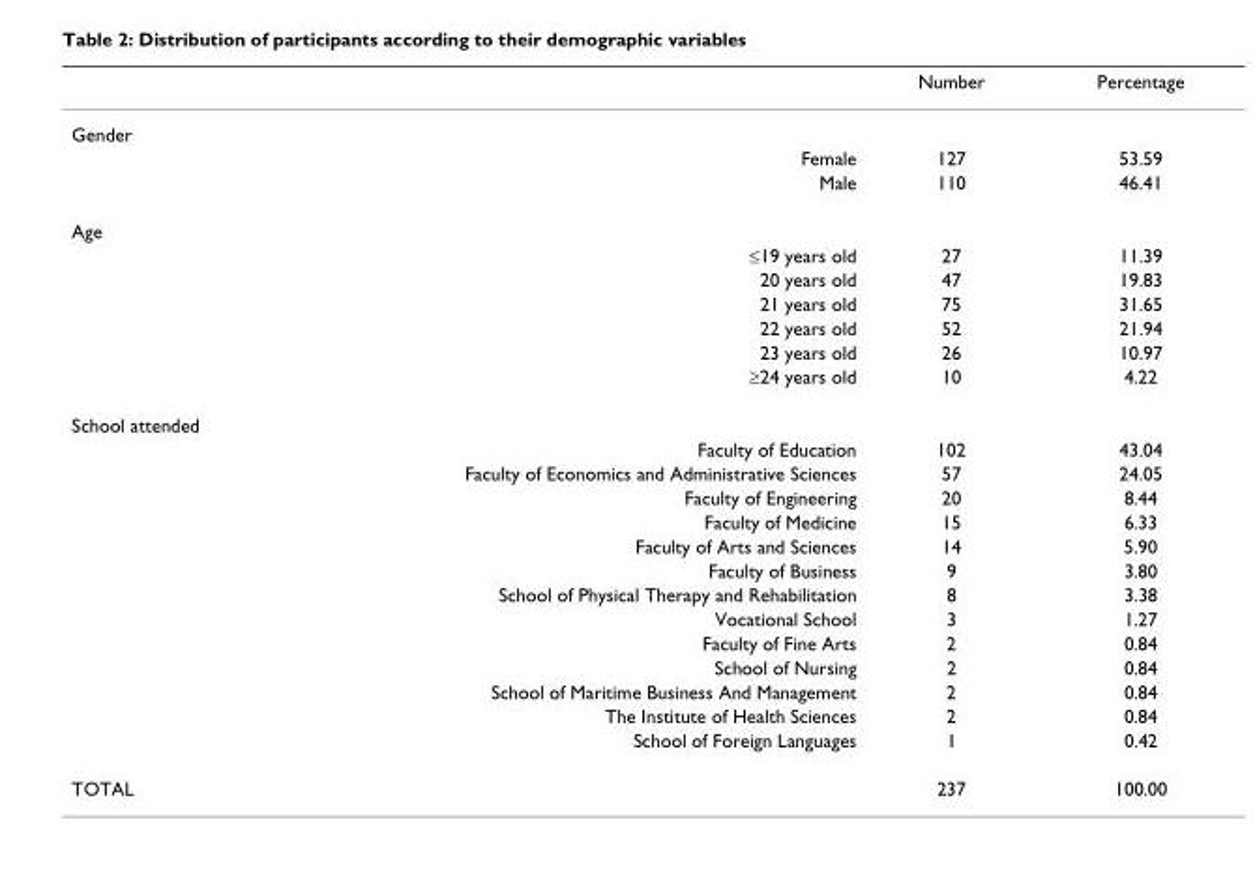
<table><thead><tr><td></td><td>Number</td><td>Percentage</td></tr></thead><tbody><tr><td colspan="3">Gender</td></tr><tr><td>Female</td><td>127</td><td>53.59</td></tr><tr><td>Male</td><td>110</td><td>46.41</td></tr><tr><td colspan="3">Age</td></tr><tr><td>≤19 years old</td><td>27</td><td>11.39</td></tr><tr><td>20 years old</td><td>47</td><td>19.83</td></tr><tr><td>21 years old</td><td>75</td><td>31.65</td></tr><tr><td>22 years old</td><td>52</td><td>21.94</td></tr><tr><td>23 years old</td><td>26</td><td>10.97</td></tr><tr><td>≥24 years old</td><td>10</td><td>4.22</td></tr><tr><td colspan="3">School attended</td></tr><tr><td>Faculty of Education</td><td>102</td><td>43.04</td></tr><tr><td>Faculty of Economics and Administrative Sciences</td><td>57</td><td>24.05</td></tr><tr><td>Faculty of Engineering</td><td>20</td><td>8.44</td></tr><tr><td>Faculty of Medicine</td><td>15</td><td>6.33</td></tr><tr><td>Faculty of Arts and Sciences</td><td>14</td><td>5.90</td></tr><tr><td>Faculty of Business</td><td>9</td><td>3.80</td></tr><tr><td>School of Physical Therapy and Rehabilitation</td><td>8</td><td>3.38</td></tr><tr><td>Vocational School</td><td>3</td><td>1.27</td></tr><tr><td>Faculty of Fine Arts</td><td>2</td><td>0.84</td></tr><tr><td>School of Nursing</td><td>2</td><td>0.84</td></tr><tr><td>School of Maritime Business And Management</td><td>2</td><td>0.84</td></tr><tr><td>The Institute of Health Sciences</td><td>2</td><td>0.84</td></tr><tr><td>School of Foreign Languages</td><td>1</td><td>0.42</td></tr><tr><td>TOTAL</td><td>237</td><td>100.00</td></tr></tbody></table>